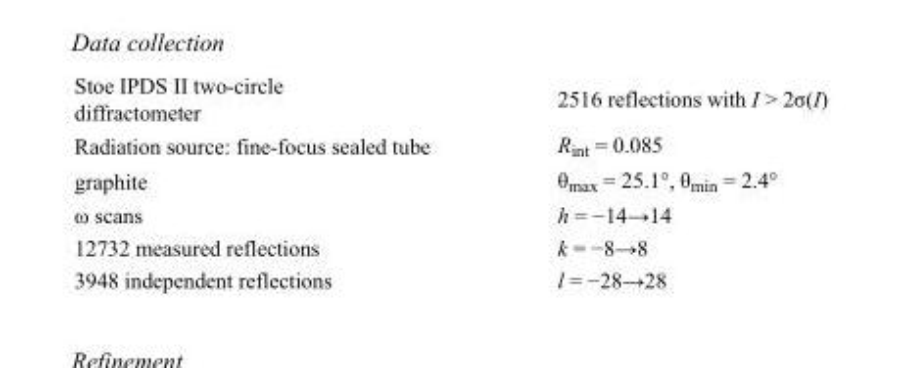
<table><tbody><tr><td>Stoe IPDS II two-circle diffractometer</td><td>2516 reflections with I &gt; 2σ(I)</td></tr><tr><td>Radiation source: fine-focus sealed tube</td><td>R<sub>int</sub> = 0.085</td></tr><tr><td>graphite</td><td>θ<sub>max</sub> = 25.1°, θ<sub>min</sub> = 2.4°</td></tr><tr><td>ω scans</td><td>h = −14→14</td></tr><tr><td>12732 measured reflections</td><td>k = −8→8</td></tr><tr><td>3948 independent reflections</td><td>l = −28→28</td></tr></tbody></table>